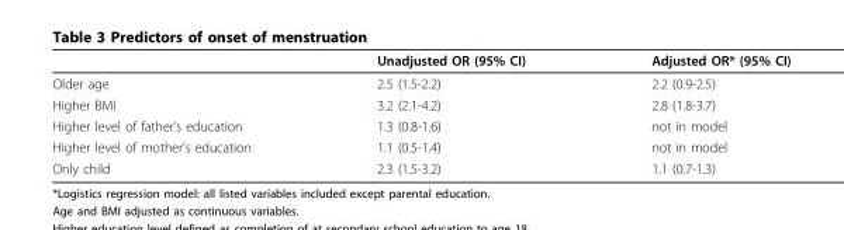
<table><thead><tr><td></td><td>Unadjusted OR (95% CI)</td><td>Adjusted OR* (95% CI)</td></tr></thead><tbody><tr><td>Older age</td><td>2.5 (1.5-2.2)</td><td>2.2 (0.9-2.5)</td></tr><tr><td>Higher BMI</td><td>3.2 (2.1-4.2)</td><td>2.8 (1.8-3.7)</td></tr><tr><td>Higher level of father’s education</td><td>1.3 (0.8-1.6)</td><td>not in model</td></tr><tr><td>Higher level of mother’s education</td><td>1.1 (0.5-1.4)</td><td>not in model</td></tr><tr><td>Only child</td><td>2.3 (1.5-3.2)</td><td>1.1 (0.7-1.3)</td></tr></tbody></table>